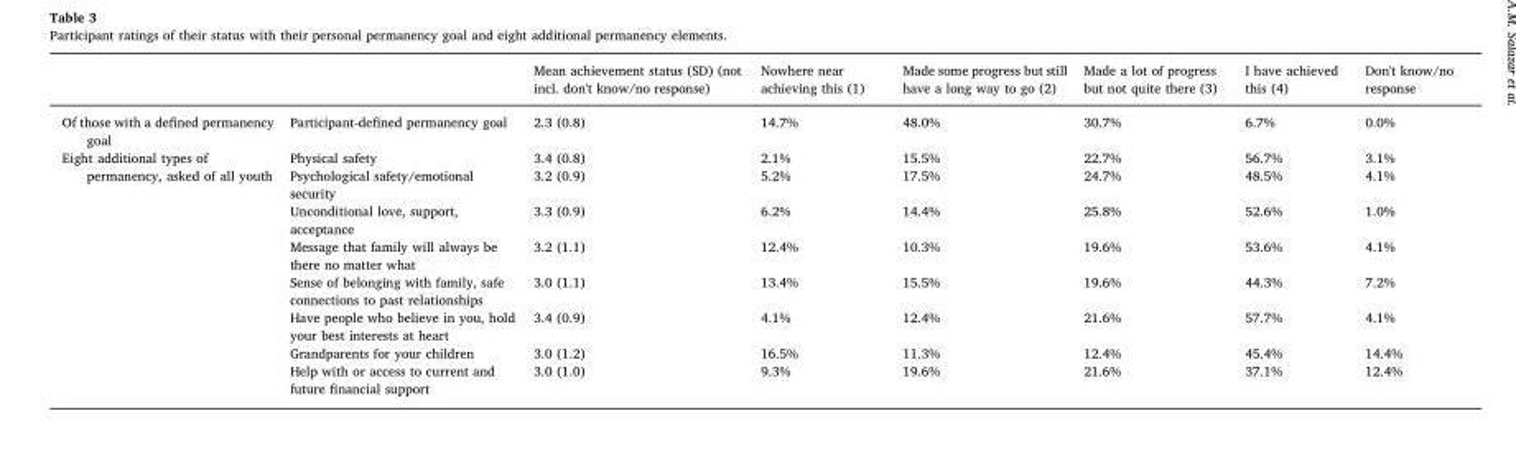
<table><thead><tr><td></td><td></td><td>Mean achievement status (SD) (not incl. don&#x27;t know/no response)</td><td>Nowhere near achieving this (1)</td><td>Made some progress but still have a long way to go (2)</td><td>Made a lot of progress but not quite there (3)</td><td>I have achieved this (4)</td><td>Don&#x27;t know/no response</td></tr></thead><tbody><tr><td>Of those with a defined permanency goal</td><td>Participant-defined permanency goal</td><td>2.3 (0.8)</td><td>14.7%</td><td>48.0%</td><td>30.7%</td><td>6.7%</td><td>0.0%</td></tr><tr><td rowspan="8">Eight additional types of permanency, asked of all youth</td><td>Physical safety</td><td>3.4 (0.8)</td><td>2.1%</td><td>15.5%</td><td>22.7%</td><td>56.7%</td><td>3.1%</td></tr><tr><td>Psychological safety/emotional security</td><td>3.2 (0.9)</td><td>5.2%</td><td>17.5%</td><td>24.7%</td><td>48.5%</td><td>4.1%</td></tr><tr><td>Unconditional love, support, acceptance</td><td>3.3 (0.9)</td><td>6.2%</td><td>14.4%</td><td>25.8%</td><td>52.6%</td><td>1.0%</td></tr><tr><td>Message that family will always be there no matter what</td><td>3.2 (1.1)</td><td>12.4%</td><td>10.3%</td><td>19.6%</td><td>53.6%</td><td>4.1%</td></tr><tr><td>Sense of belonging with family, safe connections to past relationships</td><td>3.0 (1.1)</td><td>13.4%</td><td>15.5%</td><td>19.6%</td><td>44.3%</td><td>7.2%</td></tr><tr><td>Have people who believe in you, hold your best interests at heart</td><td>3.4 (0.9)</td><td>4.1%</td><td>12.4%</td><td>21.6%</td><td>57.7%</td><td>4.1%</td></tr><tr><td>Grandparents for your children</td><td>3.0 (1.2)</td><td>16.5%</td><td>11.3%</td><td>12.4%</td><td>45.4%</td><td>14.4%</td></tr><tr><td>Help with or access to current and future financial support</td><td>3.0 (1.0)</td><td>9.3%</td><td>19.6%</td><td>21.6%</td><td>37.1%</td><td>12.4%</td></tr></tbody></table>